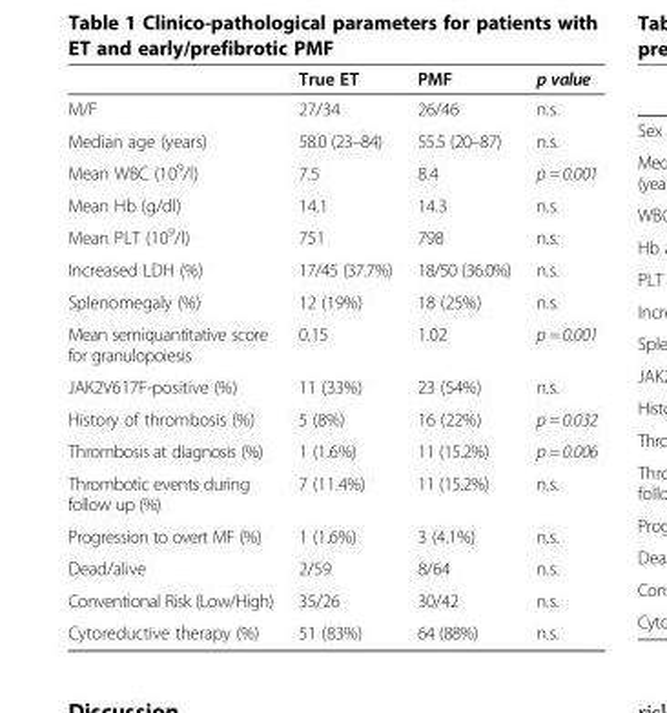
<table><thead><tr><td></td><td>True ET</td><td>PMF</td><td>p value</td></tr></thead><tbody><tr><td>M/F</td><td>27/34</td><td>26/46</td><td>n.s.</td></tr><tr><td>Median age (years)</td><td>58.0 (23–84)</td><td>55.5 (20–87)</td><td>n.s.</td></tr><tr><td>Mean WBC (10<sup>9</sup>/l)</td><td>7.5</td><td>8.4</td><td>p = 0.001</td></tr><tr><td>Mean Hb (g/dl)</td><td>14.1</td><td>14.3</td><td>n.s.</td></tr><tr><td>Mean PLT (10<sup>9</sup>/l)</td><td>751</td><td>798</td><td>n.s.</td></tr><tr><td>Increased LDH (%)</td><td>17/45 (37.7%)</td><td>18/50 (36.0%)</td><td>n.s.</td></tr><tr><td>Splenomegaly (%)</td><td>12 (19%)</td><td>18 (25%)</td><td>n.s.</td></tr><tr><td>Mean semiquantitative score for granulopoiesis</td><td>0.15</td><td>1.02</td><td>p = 0.001</td></tr><tr><td>JAK2V617F-positive (%)</td><td>11 (33%)</td><td>23 (54%)</td><td>n.s.</td></tr><tr><td>History of thrombosis (%)</td><td>5 (8%)</td><td>16 (22%)</td><td>p = 0.032</td></tr><tr><td>Thrombosis at diagnosis (%)</td><td>1 (1.6%)</td><td>11 (15.2%)</td><td>p = 0.006</td></tr><tr><td>Thrombotic events during follow up (%)</td><td>7 (11.4%)</td><td>11 (15.2%)</td><td>n.s.</td></tr><tr><td>Progression to overt MF (%)</td><td>1 (1.6%)</td><td>3 (4.1%)</td><td>n.s.</td></tr><tr><td>Dead/alive</td><td>2/59</td><td>8/64</td><td>n.s.</td></tr><tr><td>Conventional Risk (Low/High)</td><td>35/26</td><td>30/42</td><td>n.s.</td></tr><tr><td>Cytoreductive therapy (%)</td><td>51 (83%)</td><td>64 (88%)</td><td>n.s.</td></tr></tbody></table>